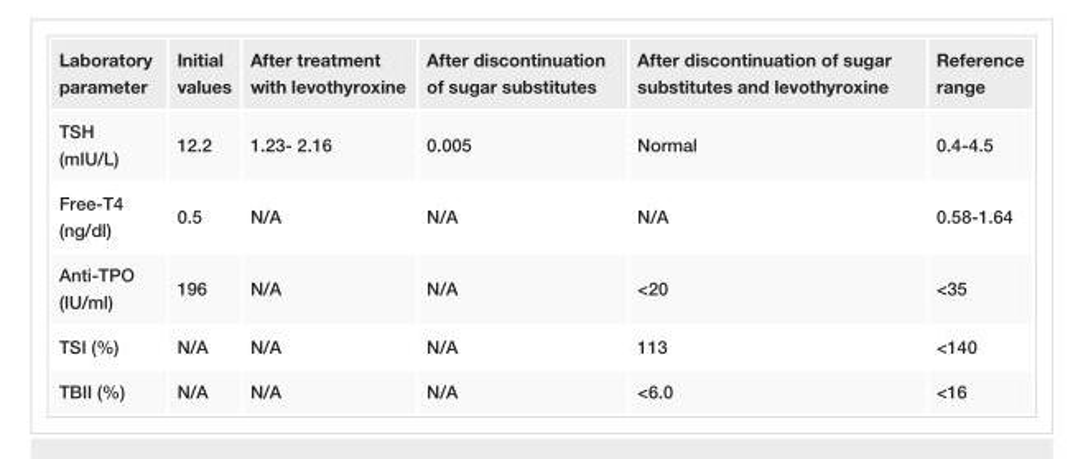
<table><tbody><tr><td>Laboratory parameter</td><td>Initial values</td><td>After treatment with levothyroxine</td><td>After discontinuation of sugar substitutes</td><td>After discontinuation of sugar substitutes and levothyroxine</td><td>Reference range</td></tr><tr><td>TSH (mIU/L)</td><td>12.2</td><td>1.23- 2.16</td><td>0.005</td><td>Normal</td><td>0.4-4.5</td></tr><tr><td>Free-T4 (ng/dl)</td><td>0.5</td><td>N/A</td><td>N/A</td><td>N/A</td><td>0.58-1.64</td></tr><tr><td>Anti-TPO (IU/ml)</td><td>196</td><td>N/A</td><td>N/A</td><td>&lt;20</td><td>&lt;35</td></tr><tr><td>TSI (%)</td><td>N/A</td><td>N/A</td><td>N/A</td><td>113</td><td>&lt;140</td></tr><tr><td>TBII (%)</td><td>N/A</td><td>N/A</td><td>N/A</td><td>&lt;6.0</td><td>&lt;16</td></tr></tbody></table>